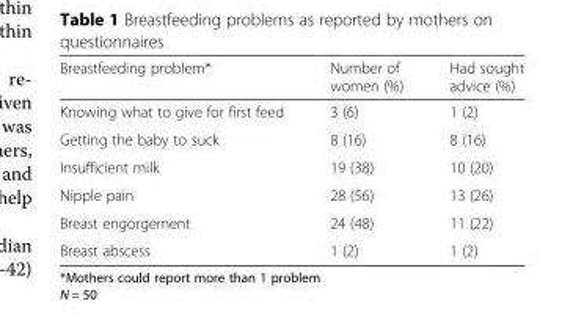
<table><thead><tr><td>Breastfeeding problem*</td><td>Number of women (%)</td><td>Had sought advice (%)</td></tr></thead><tbody><tr><td>Knowing what to give for first feed</td><td>3 (6)</td><td>1 (2)</td></tr><tr><td>Getting the baby to suck</td><td>8 (16)</td><td>8 (16)</td></tr><tr><td>Insufficient milk</td><td>19 (38)</td><td>10 (20)</td></tr><tr><td>Nipple pain</td><td>28 (56)</td><td>13 (26)</td></tr><tr><td>Breast engorgement</td><td>24 (48)</td><td>11 (22)</td></tr><tr><td>Breast abscess</td><td>1 (2)</td><td>1 (2)</td></tr></tbody></table>